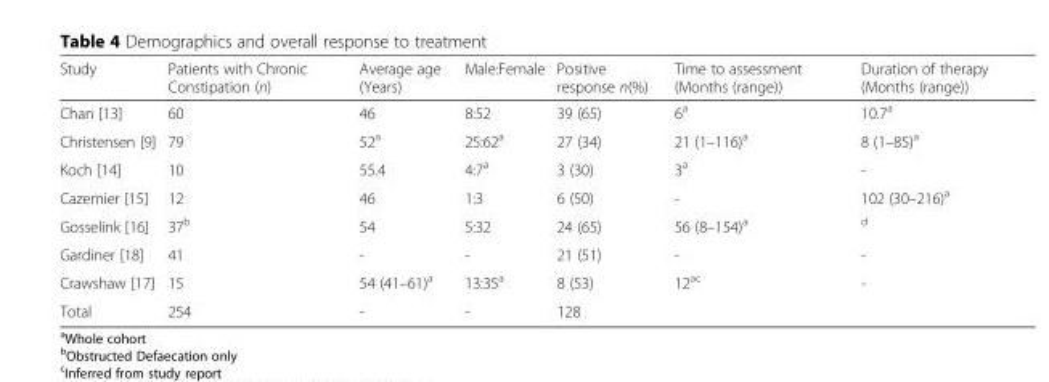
<table><thead><tr><td>Study</td><td>Patients with Chronic Constipation (n)</td><td>Average age (Years)</td><td>Male:Female</td><td>Positive response n(%)</td><td>Time to assessment (Months (range))</td><td>Duration of therapy (Months (range))</td></tr></thead><tbody><tr><td>Chan [13]</td><td>60</td><td>46</td><td>8:52</td><td>39 (65)</td><td>6<sup>a</sup></td><td>10.7<sup>a</sup></td></tr><tr><td>Christensen [9]</td><td>79</td><td>52<sup>a</sup></td><td>25:62<sup>a</sup></td><td>27 (34)</td><td>21 (1–116)<sup>a</sup></td><td>8 (1–85)<sup>a</sup></td></tr><tr><td>Koch [14]</td><td>10</td><td>55.4</td><td>4:7<sup>a</sup></td><td>3 (30)</td><td>3<sup>a</sup></td><td>-</td></tr><tr><td>Cazemier [15]</td><td>12</td><td>46</td><td>1:3</td><td>6 (50)</td><td>-</td><td>102 (30–216)<sup>a</sup></td></tr><tr><td>Gosselink [16]</td><td>37<sup>b</sup></td><td>54</td><td>5:32</td><td>24 (65)</td><td>56 (8–154)<sup>a</sup></td><td><sup>d</sup></td></tr><tr><td>Gardiner [18]</td><td>41</td><td>-</td><td>-</td><td>21 (51)</td><td>-</td><td>-</td></tr><tr><td>Crawshaw [17]</td><td>15</td><td>54 (41–61)<sup>a</sup></td><td>13:35<sup>a</sup></td><td>8 (53)</td><td>12<sup>ac</sup></td><td>-</td></tr><tr><td>Total</td><td>254</td><td>-</td><td>-</td><td>128</td><td></td><td></td></tr></tbody></table>